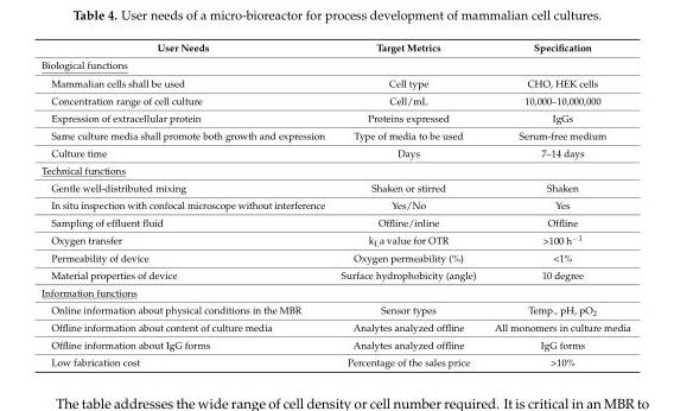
<table><thead><tr><td>User Needs</td><td>Target Metrics</td><td>Specification</td></tr></thead><tbody><tr><td colspan="3">Biological functions</td></tr><tr><td>Mammalian cells shall be used</td><td>Cell type</td><td>CHO, HEK cells</td></tr><tr><td>Concentration range of cell culture</td><td>Cell/mL</td><td>10,000–10,000,000</td></tr><tr><td>Expression of extracellular protein</td><td>Proteins expressed</td><td>IgGs</td></tr><tr><td>Same culture media shall promote both growth and expression</td><td>Type of media to be used</td><td>Serum-free medium</td></tr><tr><td>Culture time</td><td>Days</td><td>7–14 days</td></tr><tr><td colspan="3">Technical functions</td></tr><tr><td>Gentle well-distributed mixing</td><td>Shaken or stirred</td><td>Shaken</td></tr><tr><td>In situ inspection with confocal microscope without interference</td><td>Yes/No</td><td>Yes</td></tr><tr><td>Sampling of effluent fluid</td><td>Offline/inline</td><td>Offline</td></tr><tr><td>Oxygen transfer</td><td>k<sub>L</sub>a value for OTR</td><td>&gt;100 h<sup>−1</sup></td></tr><tr><td>Permeability of device</td><td>Oxygen permeability (%)</td><td>&lt;1%</td></tr><tr><td>Material properties of device</td><td>Surface hydrophobicity (angle)</td><td>10 degree</td></tr><tr><td colspan="3">Information functions</td></tr><tr><td>Online information about physical conditions in the MBR</td><td>Sensor types</td><td>Temp., pH, pO<sub>2</sub></td></tr><tr><td>Offline information about content of culture media</td><td>Analytes analyzed offline</td><td>All monomers in culture media</td></tr><tr><td>Offline information about IgG forms</td><td>Analytes analyzed offline</td><td>IgG forms</td></tr><tr><td>Low fabrication cost</td><td>Percentage of the sales price</td><td>&gt;10%</td></tr></tbody></table>